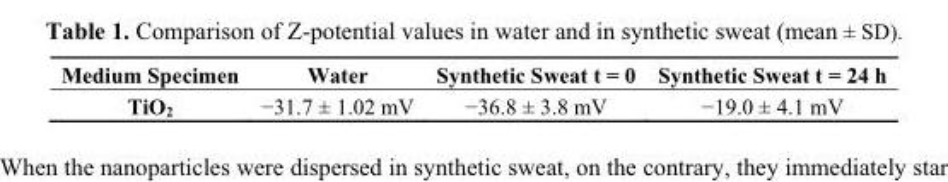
<table><thead><tr><td>Medium Specimen</td><td>Water</td><td>Synthetic Sweat t = 0</td><td>Synthetic Sweat t = 24 h</td></tr></thead><tbody><tr><td>TiO<sub>2</sub></td><td>−31.7 ± 1.02 mV</td><td>−36.8 ± 3.8 mV</td><td>−19.0 ± 4.1 mV</td></tr></tbody></table>